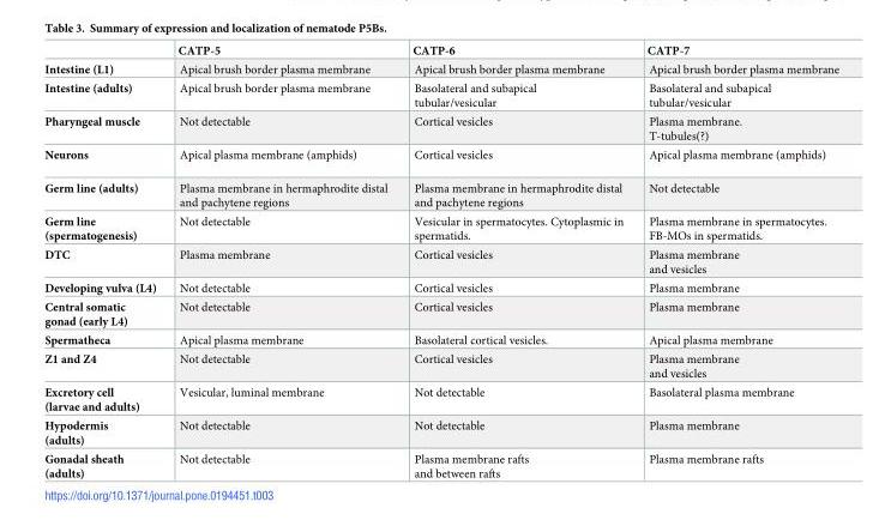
<table><thead><tr><td></td><td>CATP-5</td><td>CATP-6</td><td>CATP-7</td></tr></thead><tbody><tr><td>Intestine (L1)</td><td>Apical brush border plasma membrane</td><td>Apical brush border plasma membrane</td><td>Apical brush border plasma membrane</td></tr><tr><td>Intestine (adults)</td><td>Apical brush border plasma membrane</td><td>Basolateral and subapical tubular/vesicular</td><td>Basolateral and subapical tubular/vesicular</td></tr><tr><td>Pharyngeal muscle</td><td>Not detectable</td><td>Cortical vesicles</td><td>Plasma membrane. T-tubules(?)</td></tr><tr><td>Neurons</td><td>Apical plasma membrane (amphids)</td><td>Cortical vesicles</td><td>Apical plasma membrane (amphids)</td></tr><tr><td>Germ line (adults)</td><td>Plasma membrane in hermaphrodite distal and pachytene regions</td><td>Plasma membrane in hermaphrodite distal and pachytene regions</td><td>Not detectable</td></tr><tr><td>Germ line (spermatogenesis)</td><td>Not detectable</td><td>Vesicular in spermatocytes. Cytoplasmic in spermatids.</td><td>Plasma membrane in spermatocytes. FB-MOs in spermatids.</td></tr><tr><td>DTC</td><td>Plasma membrane</td><td>Cortical vesicles</td><td>Plasma membrane and vesicles</td></tr><tr><td>Developing vulva (L4)</td><td>Not detectable</td><td>Cortical vesicles</td><td>Plasma membrane</td></tr><tr><td>Central somatic gonad (early L4)</td><td>Not detectable</td><td>Cortical vesicles</td><td>Plasma membrane</td></tr><tr><td>Spermatheca</td><td>Apical plasma membrane</td><td>Basolateral cortical vesicles.</td><td>Apical plasma membrane</td></tr><tr><td>Z1 and Z4</td><td>Not detectable</td><td>Cortical vesicles</td><td>Plasma membrane and vesicles</td></tr><tr><td>Excretory cell (larvae and adults)</td><td>Vesicular, luminal membrane</td><td>Not detectable</td><td>Basolateral plasma membrane</td></tr><tr><td>Hypodermis (adults)</td><td>Not detectable</td><td>Not detectable</td><td>Plasma membrane</td></tr><tr><td>Gonadal sheath (adults)</td><td>Not detectable</td><td>Plasma membrane rafts and between rafts</td><td>Plasma membrane rafts</td></tr></tbody></table>